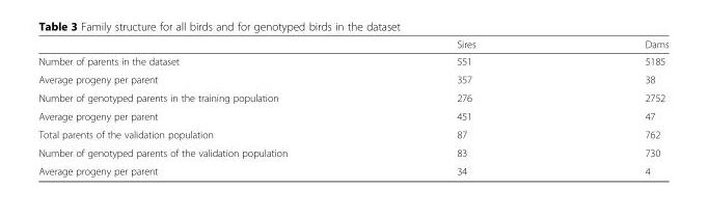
<table><thead><tr><td></td><td>Sires</td><td>Dams</td></tr></thead><tbody><tr><td>Number of parents in the dataset</td><td>551</td><td>5185</td></tr><tr><td>Average progeny per parent</td><td>357</td><td>38</td></tr><tr><td>Number of genotyped parents in the training population</td><td>276</td><td>2752</td></tr><tr><td>Average progeny per parent</td><td>451</td><td>47</td></tr><tr><td>Total parents of the validation population</td><td>87</td><td>762</td></tr><tr><td>Number of genotyped parents of the validation population</td><td>83</td><td>730</td></tr><tr><td>Average progeny per parent</td><td>34</td><td>4</td></tr></tbody></table>